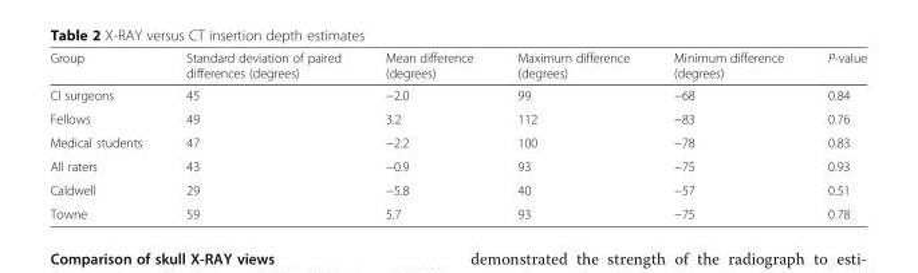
<table><thead><tr><td>Group</td><td>Standard deviation of paired differences (degrees)</td><td>Mean difference (degrees)</td><td>Maximum difference (degrees)</td><td>Minimum difference (degrees)</td><td>P-value</td></tr></thead><tbody><tr><td>CI surgeons</td><td>45</td><td>−2.0</td><td>99</td><td>−68</td><td>0.84</td></tr><tr><td>Fellows</td><td>49</td><td>3.2</td><td>112</td><td>−83</td><td>0.76</td></tr><tr><td>Medical students</td><td>47</td><td>−2.2</td><td>100</td><td>−78</td><td>0.83</td></tr><tr><td>All raters</td><td>43</td><td>−0.9</td><td>93</td><td>−75</td><td>0.93</td></tr><tr><td>Caldwell</td><td>29</td><td>−5.8</td><td>40</td><td>−57</td><td>0.51</td></tr><tr><td>Towne</td><td>59</td><td>5.7</td><td>93</td><td>−75</td><td>0.78</td></tr></tbody></table>